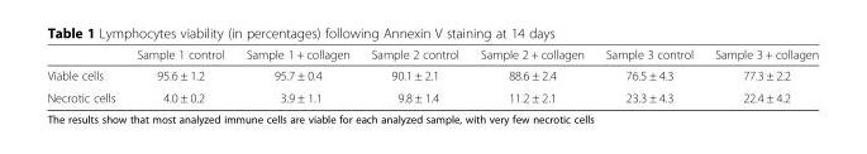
<table><thead><tr><td></td><td>Sample 1 control</td><td>Sample 1 + collagen</td><td>Sample 2 control</td><td>Sample 2 + collagen</td><td>Sample 3 control</td><td>Sample 3 + collagen</td></tr></thead><tbody><tr><td>Viable cells</td><td>95.6 ± 1.2</td><td>95.7 ± 0.4</td><td>90.1 ± 2.1</td><td>88.6 ± 2.4</td><td>76.5 ± 4.3</td><td>77.3 ± 2.2</td></tr><tr><td>Necrotic cells</td><td>4.0 ± 0.2</td><td>3.9 ± 1.1</td><td>9.8 ± 1.4</td><td>11.2 ± 2.1</td><td>23.3 ± 4.3</td><td>22.4 ± 4.2</td></tr></tbody></table>